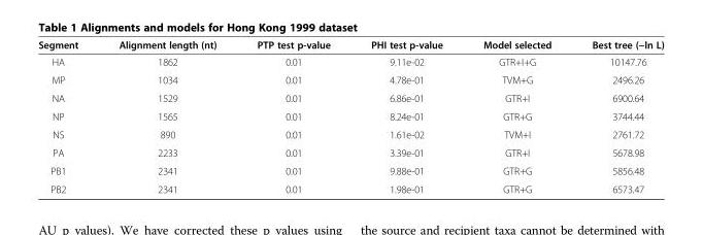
<table><thead><tr><td>Segment</td><td>Alignment length (nt)</td><td>PTP test p-value</td><td>PHI test p-value</td><td>Model selected</td><td>Best tree (−ln L)</td></tr></thead><tbody><tr><td>HA</td><td>1862</td><td>0.01</td><td>9.11e-02</td><td>GTR+I+G</td><td>10147.76</td></tr><tr><td>MP</td><td>1034</td><td>0.01</td><td>4.78e-01</td><td>TVM+G</td><td>2496.26</td></tr><tr><td>NA</td><td>1529</td><td>0.01</td><td>6.86e-01</td><td>GTR+I</td><td>6900.64</td></tr><tr><td>NP</td><td>1565</td><td>0.01</td><td>8.24e-01</td><td>GTR+G</td><td>3744.44</td></tr><tr><td>NS</td><td>890</td><td>0.01</td><td>1.61e-02</td><td>TVM+I</td><td>2761.72</td></tr><tr><td>PA</td><td>2233</td><td>0.01</td><td>3.39e-01</td><td>GTR+I</td><td>5678.98</td></tr><tr><td>PB1</td><td>2341</td><td>0.01</td><td>9.88e-01</td><td>GTR+G</td><td>5856.48</td></tr><tr><td>PB2</td><td>2341</td><td>0.01</td><td>1.98e-01</td><td>GTR+G</td><td>6573.47</td></tr></tbody></table>